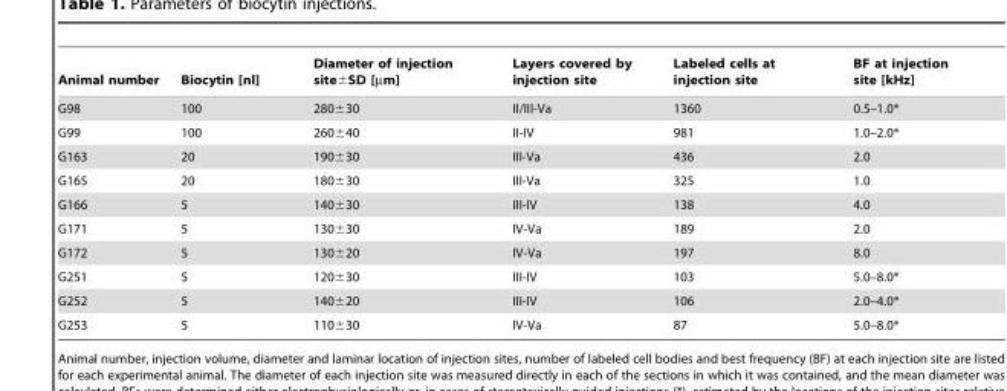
<table><thead><tr><td>Animal number</td><td>Biocytin [nl]</td><td>Diameter of injection site±SD [µm]</td><td>Layers covered by injection site</td><td>Labeled cells at injection site</td><td>BF at injection site [kHz]</td></tr></thead><tbody><tr><td>G98</td><td>100</td><td>280±30</td><td>II/III-Va</td><td>1360</td><td>0.5–1.0*</td></tr><tr><td>G99</td><td>100</td><td>260±40</td><td>II-IV</td><td>981</td><td>1.0–2.0*</td></tr><tr><td>G163</td><td>20</td><td>190±30</td><td>III-Va</td><td>436</td><td>2.0</td></tr><tr><td>G165</td><td>20</td><td>180±30</td><td>III-Va</td><td>325</td><td>1.0</td></tr><tr><td>G166</td><td>5</td><td>140±30</td><td>III-IV</td><td>138</td><td>4.0</td></tr><tr><td>G171</td><td>5</td><td>130±30</td><td>IV-Va</td><td>189</td><td>2.0</td></tr><tr><td>G172</td><td>5</td><td>130±20</td><td>IV-Va</td><td>197</td><td>8.0</td></tr><tr><td>G251</td><td>5</td><td>120±30</td><td>III-IV</td><td>103</td><td>5.0–8.0*</td></tr><tr><td>G252</td><td>5</td><td>140±20</td><td>III-IV</td><td>106</td><td>2.0–4.0*</td></tr><tr><td>G253</td><td>5</td><td>110±30</td><td>IV-Va</td><td>87</td><td>5.0–8.0*</td></tr></tbody></table>